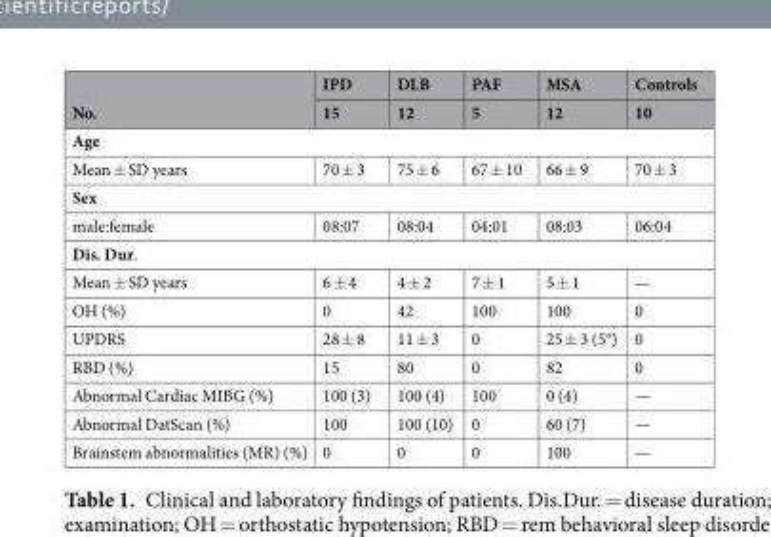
<table><thead><tr><td rowspan="2">No.</td><td rowspan="2">IPD 15</td><td rowspan="2">DLB 12</td><td rowspan="2">PAF 5</td><td rowspan="2">MSA 12</td><td rowspan="2">Controls 10</td></tr><tr></tr></thead><tbody><tr><td colspan="6">Age</td></tr><tr><td>Mean ± SD years</td><td>70 ± 3</td><td>75 ± 6</td><td>67 ± 10</td><td>66 ± 9</td><td>70 ± 3</td></tr><tr><td colspan="6">Sex</td></tr><tr><td>male:female</td><td>08:07</td><td>08:04</td><td>04:01</td><td>08:03</td><td>06:04</td></tr><tr><td colspan="6">Dis. Dur.</td></tr><tr><td>Mean ± SD years</td><td>6 ± 4</td><td>4 ± 2</td><td>7 ± 1</td><td>5 ± 1</td><td>—</td></tr><tr><td>OH (%)</td><td>0</td><td>42</td><td>100</td><td>100</td><td>0</td></tr><tr><td>UPDRS</td><td>28 ± 8</td><td>11 ± 3</td><td>0</td><td>25 ± 3 (5°)</td><td>0</td></tr><tr><td>RBD (%)</td><td>15</td><td>80</td><td>0</td><td>82</td><td>0</td></tr><tr><td>Abnormal Cardiac MIBG (%)</td><td>100 (3)</td><td>100 (4)</td><td>100</td><td>0 (4)</td><td>—</td></tr><tr><td>Abnormal DatScan (%)</td><td>100</td><td>100 (10)</td><td>0</td><td>60 (7)</td><td>—</td></tr><tr><td>Brainstem abnormalities (MR) (%)</td><td>0</td><td>0</td><td>0</td><td>100</td><td>—</td></tr></tbody></table>